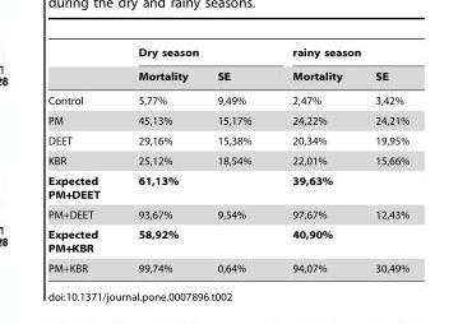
<table><thead><tr><td rowspan="2"></td><td colspan="2">Dry season</td><td colspan="2">rainy season</td></tr><tr><td>Mortality</td><td>SE</td><td>Mortality</td><td>SE</td></tr></thead><tbody><tr><td>Control</td><td>5,77%</td><td>9,49%</td><td>2,47%</td><td>3,42%</td></tr><tr><td>PM</td><td>45,13%</td><td>15,17%</td><td>24,22%</td><td>24,21%</td></tr><tr><td>DEET</td><td>29,16%</td><td>15,38%</td><td>20,34%</td><td>19,95%</td></tr><tr><td>KBR</td><td>25,12%</td><td>18,54%</td><td>22,01%</td><td>15,66%</td></tr><tr><td>Expected PM+DEET</td><td>61,13%</td><td></td><td>39,63%</td><td></td></tr><tr><td>PM+DEET</td><td>93,67%</td><td>9,54%</td><td>97,67%</td><td>12,43%</td></tr><tr><td>Expected PM+KBR</td><td>58,92%</td><td></td><td>40,90%</td><td></td></tr><tr><td>PM+KBR</td><td>99,74%</td><td>0,64%</td><td>94,07%</td><td>30,49%</td></tr></tbody></table>